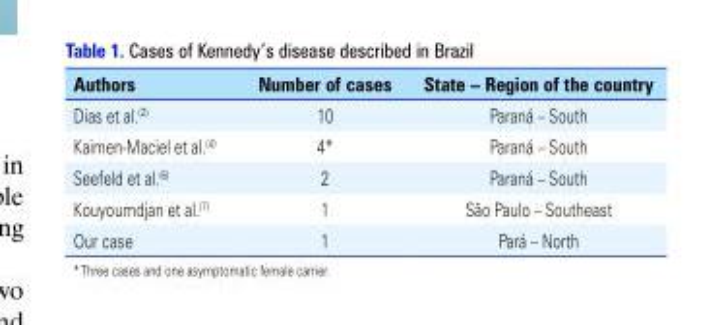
<table><thead><tr><td>Authors</td><td>Number of cases</td><td>State – Region of the country</td></tr></thead><tbody><tr><td>Dias et al.<sup>(2)</sup></td><td>10</td><td>Paraná – South</td></tr><tr><td>Kaimen-Maciel et al.<sup>(4)</sup></td><td>4*</td><td>Paraná – South</td></tr><tr><td>Seefeld et al.<sup>(6)</sup></td><td>2</td><td>Paraná – South</td></tr><tr><td>Kouyoumdjan et al.<sup>(7)</sup></td><td>1</td><td>São Paulo – Southeast</td></tr><tr><td>Our case</td><td>1</td><td>Pará – North</td></tr></tbody></table>